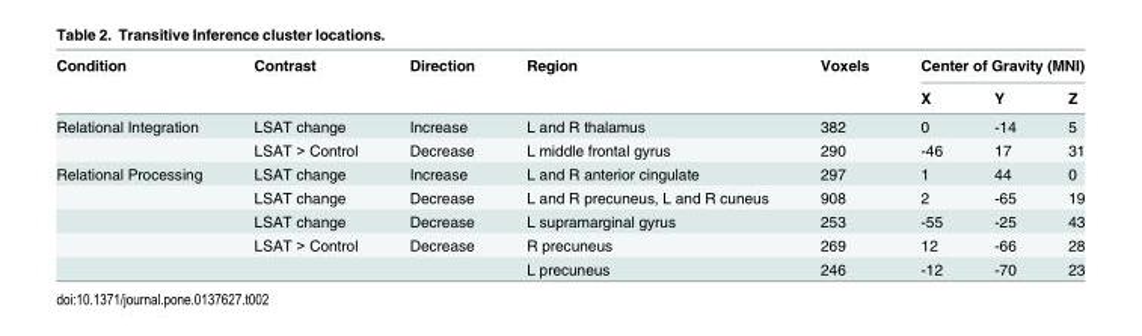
<table><thead><tr><td rowspan="2">Condition</td><td rowspan="2">Contrast</td><td rowspan="2">Direction</td><td rowspan="2">Region</td><td rowspan="2">Voxels</td><td colspan="3">Center of Gravity (MNI)</td></tr><tr><td>X</td><td>Y</td><td>Z</td></tr></thead><tbody><tr><td rowspan="2">Relational Integration</td><td>LSAT change</td><td>Increase</td><td>L and R thalamus</td><td>382</td><td>0</td><td>-14</td><td>5</td></tr><tr><td>LSAT &gt; Control</td><td>Decrease</td><td>L middle frontal gyrus</td><td>290</td><td>-46</td><td>17</td><td>31</td></tr><tr><td rowspan="5">Relational Processing</td><td>LSAT change</td><td>Increase</td><td>L and R anterior cingulate</td><td>297</td><td>1</td><td>44</td><td>0</td></tr><tr><td>LSAT change</td><td>Decrease</td><td>L and R precuneus, L and R cuneus</td><td>908</td><td>2</td><td>-65</td><td>19</td></tr><tr><td>LSAT change</td><td>Decrease</td><td>L supramarginal gyrus</td><td>253</td><td>-55</td><td>-25</td><td>43</td></tr><tr><td>LSAT &gt; Control</td><td>Decrease</td><td>R precuneus</td><td>269</td><td>12</td><td>-66</td><td>28</td></tr><tr><td></td><td></td><td>L precuneus</td><td>246</td><td>-12</td><td>-70</td><td>23</td></tr></tbody></table>